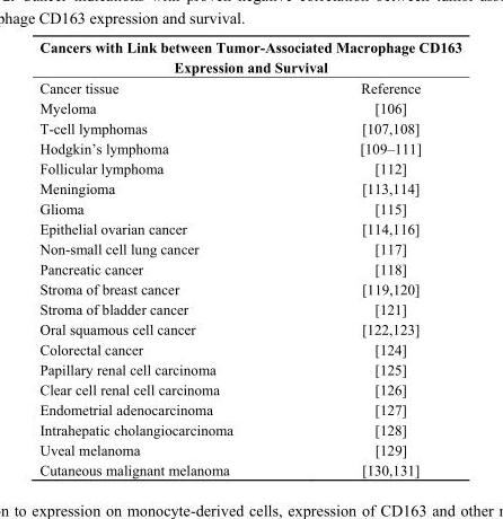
<table><thead><tr><td colspan="2">Cancers with Link between Tumor-Associated Macrophage CD163 Expression and Survival</td></tr><tr><td>Cancer tissue</td><td>Reference</td></tr></thead><tbody><tr><td>Myeloma</td><td>[106]</td></tr><tr><td>T-cell lymphomas</td><td>[107,108]</td></tr><tr><td>Hodgkin’s lymphoma</td><td>[109–111]</td></tr><tr><td>Follicular lymphoma</td><td>[112]</td></tr><tr><td>Meningioma</td><td>[113,114]</td></tr><tr><td>Glioma</td><td>[115]</td></tr><tr><td>Epithelial ovarian cancer</td><td>[114,116]</td></tr><tr><td>Non-small cell lung cancer</td><td>[117]</td></tr><tr><td>Pancreatic cancer</td><td>[118]</td></tr><tr><td>Stroma of breast cancer</td><td>[119,120]</td></tr><tr><td>Stroma of bladder cancer</td><td>[121]</td></tr><tr><td>Oral squamous cell cancer</td><td>[122,123]</td></tr><tr><td>Colorectal cancer</td><td>[124]</td></tr><tr><td>Papillary renal cell carcinoma</td><td>[125]</td></tr><tr><td>Clear cell renal cell carcinoma</td><td>[126]</td></tr><tr><td>Endometrial adenocarcinoma</td><td>[127]</td></tr><tr><td>Intrahepatic cholangiocarcinoma</td><td>[128]</td></tr><tr><td>Uveal melanoma</td><td>[129]</td></tr><tr><td>Cutaneous malignant melanoma</td><td>[130,131]</td></tr></tbody></table>